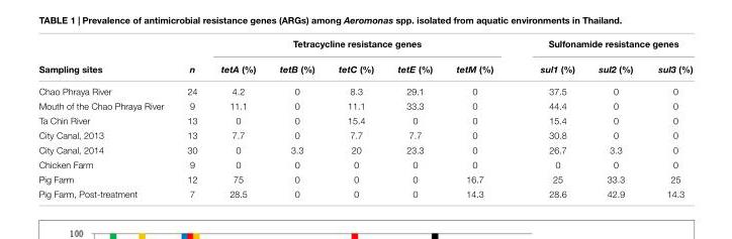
<table><thead><tr><td rowspan="2">Sampling sites</td><td rowspan="2">n</td><td colspan="5">Tetracycline resistance genes</td><td colspan="3">Sulfonamide resistance genes</td></tr><tr><td>tetA (%)</td><td>tetB (%)</td><td>tetC (%)</td><td>tetE (%)</td><td>tetM (%)</td><td>sul1 (%)</td><td>sul2 (%)</td><td>sul3 (%)</td></tr></thead><tbody><tr><td>Chao Phraya River</td><td>24</td><td>4.2</td><td>0</td><td>8.3</td><td>29.1</td><td>0</td><td>37.5</td><td>0</td><td>0</td></tr><tr><td>Mouth of the Chao Phraya River</td><td>9</td><td>11.1</td><td>0</td><td>11.1</td><td>33.3</td><td>0</td><td>44.4</td><td>0</td><td>0</td></tr><tr><td>Ta Chin River</td><td>13</td><td>0</td><td>0</td><td>15.4</td><td>0</td><td>0</td><td>15.4</td><td>0</td><td>0</td></tr><tr><td>City Canal, 2013</td><td>13</td><td>7.7</td><td>0</td><td>7.7</td><td>7.7</td><td>0</td><td>30.8</td><td>0</td><td>0</td></tr><tr><td>City Canal, 2014</td><td>30</td><td>0</td><td>3.3</td><td>20</td><td>23.3</td><td>0</td><td>26.7</td><td>3.3</td><td>0</td></tr><tr><td>Chicken Farm</td><td>9</td><td>0</td><td>0</td><td>0</td><td>0</td><td>0</td><td>0</td><td>0</td><td>0</td></tr><tr><td>Pig Farm</td><td>12</td><td>75</td><td>0</td><td>0</td><td>0</td><td>16.7</td><td>25</td><td>33.3</td><td>25</td></tr><tr><td>Pig Farm, Post-treatment</td><td>7</td><td>28.5</td><td>0</td><td>0</td><td>0</td><td>14.3</td><td>28.6</td><td>42.9</td><td>14.3</td></tr></tbody></table>